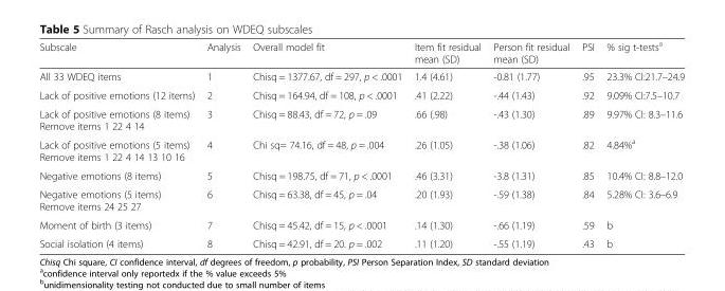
<table><thead><tr><td>Subscale</td><td>Analysis</td><td>Overall model fit</td><td>Item fit residual mean (SD)</td><td>Person fit residual mean (SD)</td><td>PSI</td><td>% sig t-tests<sup>a</sup></td></tr></thead><tbody><tr><td>All 33 WDEQ items</td><td>1</td><td>Chisq = 1377.67, df = 297, p &lt; .0001</td><td>1.4 (4.61)</td><td>-0.81 (1.77)</td><td>.95</td><td>23.3% CI:21.7–24.9</td></tr><tr><td>Lack of positive emotions (12 items)</td><td>2</td><td>Chisq = 164.94, df = 108, p &lt; .0001</td><td>.41 (2.22)</td><td>-.44 (1.43)</td><td>.92</td><td>9.09% CI:7.5–10.7</td></tr><tr><td>Lack of positive emotions (8 items) Remove items 1 22 4 14</td><td>3</td><td>Chisq = 88.43, df = 72, p = .09</td><td>.66 (.98)</td><td>-.43 (1.30)</td><td>.89</td><td>9.97% CI: 8.3–11.6</td></tr><tr><td>Lack of positive emotions (5 items) Remove items 1 22 4 14 13 10 16</td><td>4</td><td>Chi sq= 74.16, df = 48, p = .004</td><td>.26 (1.05)</td><td>-.38 (1.06)</td><td>.82</td><td>4.84%<sup>a</sup></td></tr><tr><td>Negative emotions (8 items)</td><td>5</td><td>Chisq = 198.75, df = 71, p &lt; .0001</td><td>.46 (3.31)</td><td>-3.8 (1.31)</td><td>.85</td><td>10.4% CI: 8.8–12.0</td></tr><tr><td>Negative emotions (5 items) Remove items 24 25 27</td><td>6</td><td>Chisq = 63.38, df = 45, p = .04</td><td>.20 (1.93)</td><td>-.59 (1.38)</td><td>.84</td><td>5.28% CI: 3.6–6.9</td></tr><tr><td>Moment of birth (3 items)</td><td>7</td><td>Chisq = 45.42, df = 15, p &lt; .0001</td><td>.14 (1.30)</td><td>-.66 (1.19)</td><td>.59</td><td>b</td></tr><tr><td>Social isolation (4 items)</td><td>8</td><td>Chisq = 42.91, df = 20. p = .002</td><td>.11 (1.20)</td><td>-.55 (1.19)</td><td>.43</td><td>b</td></tr></tbody></table>